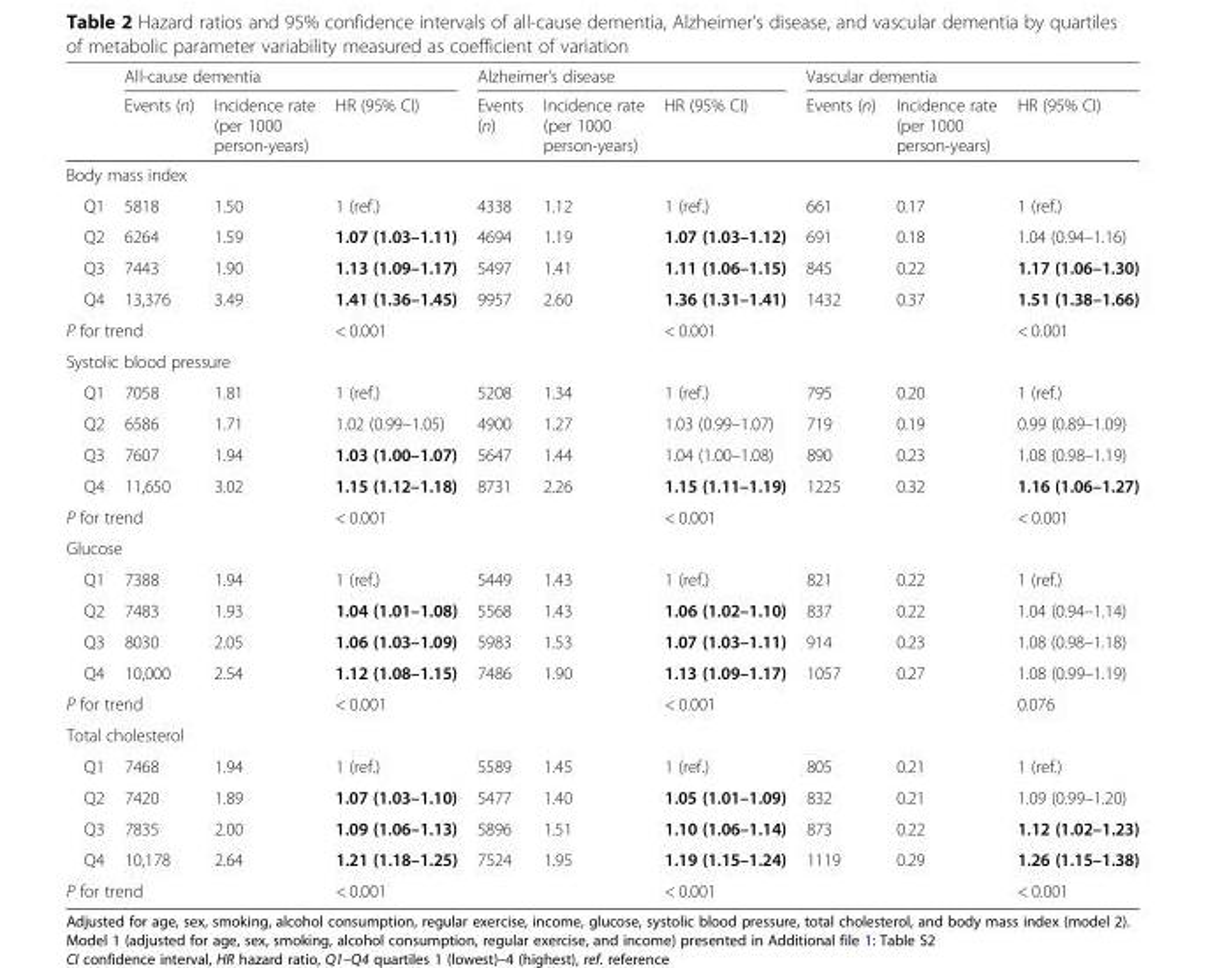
<table><thead><tr><td rowspan="2"></td><td colspan="3">All-cause dementia</td><td colspan="3">Alzheimer’s disease</td><td colspan="3">Vascular dementia</td></tr><tr><td>Events (n)</td><td>Incidence rate (per 1000 person-years)</td><td>HR (95% CI)</td><td>Events (n)</td><td>Incidence rate (per 1000 person-years)</td><td>HR (95% CI)</td><td>Events (n)</td><td>Incidence rate (per 1000 person-years)</td><td>HR (95% CI)</td></tr></thead><tbody><tr><td colspan="10">Body mass index</td></tr><tr><td>Q1</td><td>5818</td><td>1.50</td><td>1 (ref.)</td><td>4338</td><td>1.12</td><td>1 (ref.)</td><td>661</td><td>0.17</td><td>1 (ref.)</td></tr><tr><td>Q2</td><td>6264</td><td>1.59</td><td>1.07 (1.03–1.11)</td><td>4694</td><td>1.19</td><td>1.07 (1.03–1.12)</td><td>691</td><td>0.18</td><td>1.04 (0.94–1.16)</td></tr><tr><td>Q3</td><td>7443</td><td>1.90</td><td>1.13 (1.09–1.17)</td><td>5497</td><td>1.41</td><td>1.11 (1.06–1.15)</td><td>845</td><td>0.22</td><td>1.17 (1.06–1.30)</td></tr><tr><td>Q4</td><td>13,376</td><td>3.49</td><td>1.41 (1.36–1.45)</td><td>9957</td><td>2.60</td><td>1.36 (1.31–1.41)</td><td>1432</td><td>0.37</td><td>1.51 (1.38–1.66)</td></tr><tr><td colspan="2">P for trend</td><td></td><td>&lt; 0.001</td><td></td><td></td><td>&lt; 0.001</td><td></td><td></td><td>&lt; 0.001</td></tr><tr><td colspan="10">Systolic blood pressure</td></tr><tr><td>Q1</td><td>7058</td><td>1.81</td><td>1 (ref.)</td><td>5208</td><td>1.34</td><td>1 (ref.)</td><td>795</td><td>0.20</td><td>1 (ref.)</td></tr><tr><td>Q2</td><td>6586</td><td>1.71</td><td>1.02 (0.99–1.05)</td><td>4900</td><td>1.27</td><td>1.03 (0.99–1.07)</td><td>719</td><td>0.19</td><td>0.99 (0.89–1.09)</td></tr><tr><td>Q3</td><td>7607</td><td>1.94</td><td>1.03 (1.00–1.07)</td><td>5647</td><td>1.44</td><td>1.04 (1.00–1.08)</td><td>890</td><td>0.23</td><td>1.08 (0.98–1.19)</td></tr><tr><td>Q4</td><td>11,650</td><td>3.02</td><td>1.15 (1.12–1.18)</td><td>8731</td><td>2.26</td><td>1.15 (1.11–1.19)</td><td>1225</td><td>0.32</td><td>1.16 (1.06–1.27)</td></tr><tr><td colspan="2">P for trend</td><td></td><td>&lt; 0.001</td><td></td><td></td><td>&lt; 0.001</td><td></td><td></td><td>&lt; 0.001</td></tr><tr><td colspan="10">Glucose</td></tr><tr><td>Q1</td><td>7388</td><td>1.94</td><td>1 (ref.)</td><td>5449</td><td>1.43</td><td>1 (ref.)</td><td>821</td><td>0.22</td><td>1 (ref.)</td></tr><tr><td>Q2</td><td>7483</td><td>1.93</td><td>1.04 (1.01–1.08)</td><td>5568</td><td>1.43</td><td>1.06 (1.02–1.10)</td><td>837</td><td>0.22</td><td>1.04 (0.94–1.14)</td></tr><tr><td>Q3</td><td>8030</td><td>2.05</td><td>1.06 (1.03–1.09)</td><td>5983</td><td>1.53</td><td>1.07 (1.03–1.11)</td><td>914</td><td>0.23</td><td>1.08 (0.98–1.18)</td></tr><tr><td>Q4</td><td>10,000</td><td>2.54</td><td>1.12 (1.08–1.15)</td><td>7486</td><td>1.90</td><td>1.13 (1.09–1.17)</td><td>1057</td><td>0.27</td><td>1.08 (0.99–1.19)</td></tr><tr><td colspan="2">P for trend</td><td></td><td>&lt; 0.001</td><td></td><td></td><td>&lt; 0.001</td><td></td><td></td><td>0.076</td></tr><tr><td colspan="10">Total cholesterol</td></tr><tr><td>Q1</td><td>7468</td><td>1.94</td><td>1 (ref.)</td><td>5589</td><td>1.45</td><td>1 (ref.)</td><td>805</td><td>0.21</td><td>1 (ref.)</td></tr><tr><td>Q2</td><td>7420</td><td>1.89</td><td>1.07 (1.03–1.10)</td><td>5477</td><td>1.40</td><td>1.05 (1.01–1.09)</td><td>832</td><td>0.21</td><td>1.09 (0.99–1.20)</td></tr><tr><td>Q3</td><td>7835</td><td>2.00</td><td>1.09 (1.06–1.13)</td><td>5896</td><td>1.51</td><td>1.10 (1.06–1.14)</td><td>873</td><td>0.22</td><td>1.12 (1.02–1.23)</td></tr><tr><td>Q4</td><td>10,178</td><td>2.64</td><td>1.21 (1.18–1.25)</td><td>7524</td><td>1.95</td><td>1.19 (1.15–1.24)</td><td>1119</td><td>0.29</td><td>1.26 (1.15–1.38)</td></tr><tr><td colspan="2">P for trend</td><td></td><td>&lt; 0.001</td><td></td><td></td><td>&lt; 0.001</td><td></td><td></td><td>&lt; 0.001</td></tr></tbody></table>